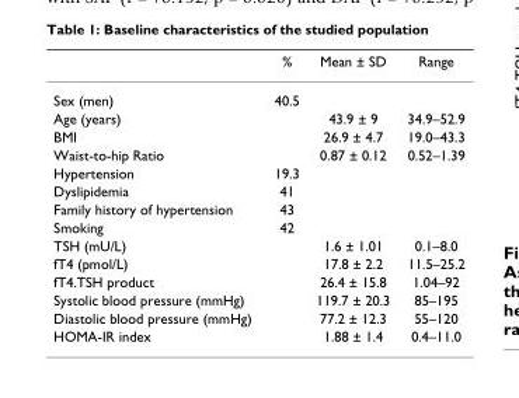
<table><thead><tr><td></td><td>%</td><td>Mean ± SD</td><td>Range</td></tr></thead><tbody><tr><td>Sex (men)</td><td>40.5</td><td></td><td></td></tr><tr><td>Age (years)</td><td></td><td>43.9 ± 9</td><td>34.9–52.9</td></tr><tr><td>BMI</td><td></td><td>26.9 ± 4.7</td><td>19.0–43.3</td></tr><tr><td>Waist-to-hip Ratio</td><td></td><td>0.87 ± 0.12</td><td>0.52–1.39</td></tr><tr><td>Hypertension</td><td>19.3</td><td></td><td></td></tr><tr><td>Dyslipidemia</td><td>41</td><td></td><td></td></tr><tr><td>Family history of hypertension</td><td>43</td><td></td><td></td></tr><tr><td>Smoking</td><td>42</td><td></td><td></td></tr><tr><td>TSH (mU/L)</td><td></td><td>1.6 ± 1.01</td><td>0.1–8.0</td></tr><tr><td>fT4 (pmol/L)</td><td></td><td>17.8 ± 2.2</td><td>11.5–25.2</td></tr><tr><td>fT4.TSH product</td><td></td><td>26.4 ± 15.8</td><td>1.04–92</td></tr><tr><td>Systolic blood pressure (mmHg)</td><td></td><td>119.7 ± 20.3</td><td>85–195</td></tr><tr><td>Diastolic blood pressure (mmHg)</td><td></td><td>77.2 ± 12.3</td><td>55–120</td></tr><tr><td>HOMA-IR index</td><td></td><td>1.88 ± 1.4</td><td>0.4–11.0</td></tr></tbody></table>